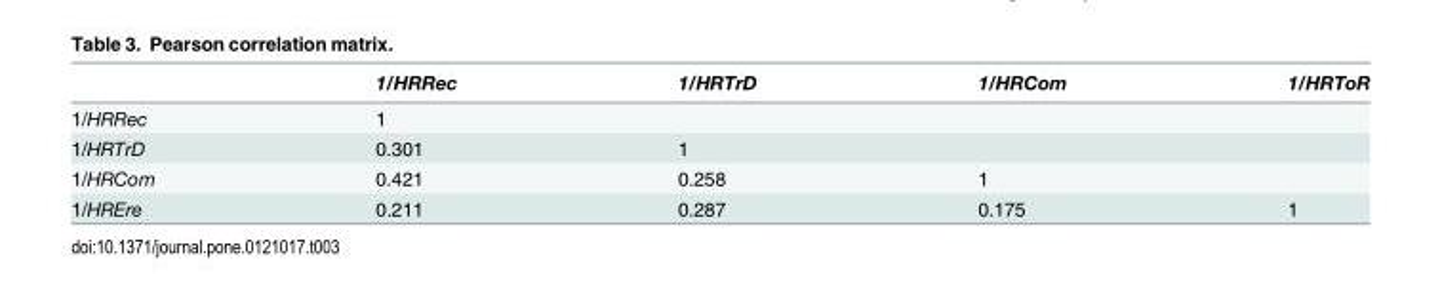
<table><thead><tr><td></td><td>1/HRRec</td><td>1/HRTrD</td><td>1/HRCom</td><td>1/HRToR</td></tr></thead><tbody><tr><td>1/HRRec</td><td>1</td><td></td><td></td><td></td></tr><tr><td>1/HRTrD</td><td>0.301</td><td>1</td><td></td><td></td></tr><tr><td>1/HRCom</td><td>0.421</td><td>0.258</td><td>1</td><td></td></tr><tr><td>1/HREre</td><td>0.211</td><td>0.287</td><td>0.175</td><td>1</td></tr></tbody></table>